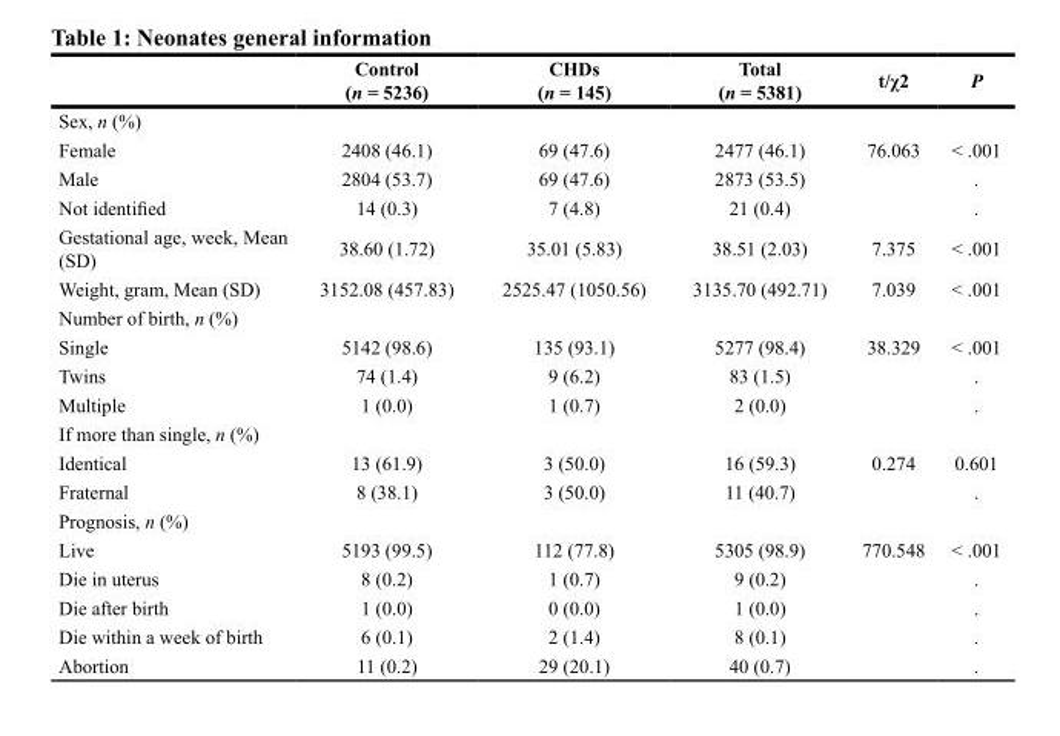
<table><thead><tr><td></td><td>Control (n = 5236)</td><td>CHDs (n = 145)</td><td>Total (n = 5381)</td><td>t/χ2</td><td>P</td></tr></thead><tbody><tr><td colspan="6">Sex, n (%)</td></tr><tr><td>Female</td><td>2408 (46.1)</td><td>69 (47.6)</td><td>2477 (46.1)</td><td>76.063</td><td>&lt; .001</td></tr><tr><td>Male</td><td>2804 (53.7)</td><td>69 (47.6)</td><td>2873 (53.5)</td><td></td><td>.</td></tr><tr><td>Not identified</td><td>14 (0.3)</td><td>7 (4.8)</td><td>21 (0.4)</td><td></td><td>.</td></tr><tr><td>Gestational age, week, Mean (SD)</td><td>38.60 (1.72)</td><td>35.01 (5.83)</td><td>38.51 (2.03)</td><td>7.375</td><td>&lt; .001</td></tr><tr><td>Weight, gram, Mean (SD)</td><td>3152.08 (457.83)</td><td>2525.47 (1050.56)</td><td>3135.70 (492.71)</td><td>7.039</td><td>&lt; .001</td></tr><tr><td colspan="6">Number of birth, n (%)</td></tr><tr><td>Single</td><td>5142 (98.6)</td><td>135 (93.1)</td><td>5277 (98.4)</td><td>38.329</td><td>&lt; .001</td></tr><tr><td>Twins</td><td>74 (1.4)</td><td>9 (6.2)</td><td>83 (1.5)</td><td></td><td>.</td></tr><tr><td>Multiple</td><td>1 (0.0)</td><td>1 (0.7)</td><td>2 (0.0)</td><td></td><td>.</td></tr><tr><td colspan="6">If more than single, n (%)</td></tr><tr><td>Identical</td><td>13 (61.9)</td><td>3 (50.0)</td><td>16 (59.3)</td><td>0.274</td><td>0.601</td></tr><tr><td>Fraternal</td><td>8 (38.1)</td><td>3 (50.0)</td><td>11 (40.7)</td><td></td><td>.</td></tr><tr><td colspan="6">Prognosis, n (%)</td></tr><tr><td>Live</td><td>5193 (99.5)</td><td>112 (77.8)</td><td>5305 (98.9)</td><td>770.548</td><td>&lt; .001</td></tr><tr><td>Die in uterus</td><td>8 (0.2)</td><td>1 (0.7)</td><td>9 (0.2)</td><td></td><td>.</td></tr><tr><td>Die after birth</td><td>1 (0.0)</td><td>0 (0.0)</td><td>1 (0.0)</td><td></td><td>.</td></tr><tr><td>Die within a week of birth</td><td>6 (0.1)</td><td>2 (1.4)</td><td>8 (0.1)</td><td></td><td>.</td></tr><tr><td>Abortion</td><td>11 (0.2)</td><td>29 (20.1)</td><td>40 (0.7)</td><td></td><td>.</td></tr></tbody></table>